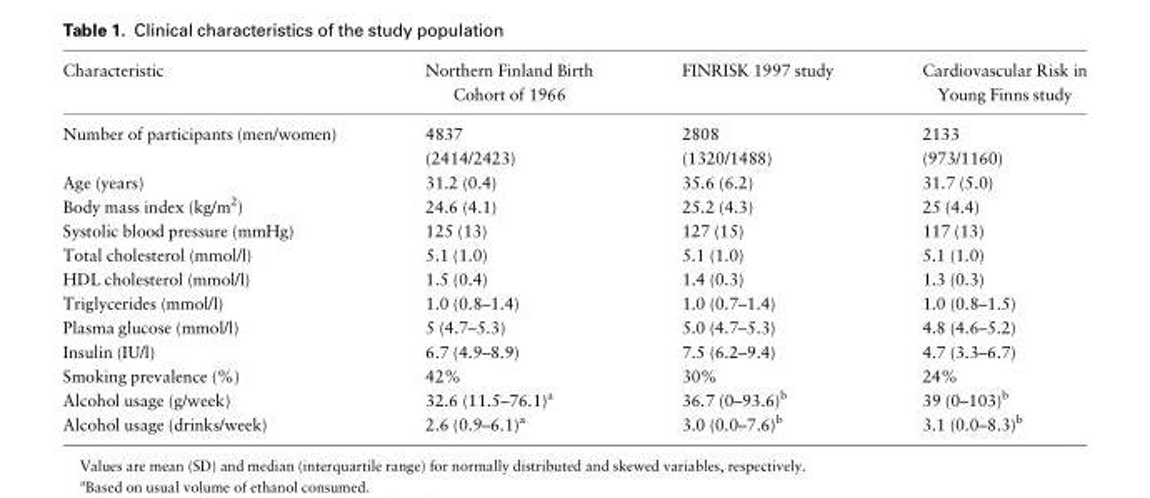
<table><thead><tr><td>Characteristic</td><td>Northern Finland Birth Cohort of 1966</td><td>FINRISK 1997 study</td><td>Cardiovascular Risk in Young Finns study</td></tr></thead><tbody><tr><td rowspan="2">Number of participants (men/women)</td><td>4837</td><td>2808</td><td>2133</td></tr><tr><td>(2414/2423)</td><td>(1320/1488)</td><td>(973/1160)</td></tr><tr><td>Age (years)</td><td>31.2 (0.4)</td><td>35.6 (6.2)</td><td>31.7 (5.0)</td></tr><tr><td>Body mass index (kg/m<sup>2</sup>)</td><td>24.6 (4.1)</td><td>25.2 (4.3)</td><td>25 (4.4)</td></tr><tr><td>Systolic blood pressure (mmHg)</td><td>125 (13)</td><td>127 (15)</td><td>117 (13)</td></tr><tr><td>Total cholesterol (mmol/l)</td><td>5.1 (1.0)</td><td>5.1 (1.0)</td><td>5.1 (1.0)</td></tr><tr><td>HDL cholesterol (mmol/l)</td><td>1.5 (0.4)</td><td>1.4 (0.3)</td><td>1.3 (0.3)</td></tr><tr><td>Triglycerides (mmol/l)</td><td>1.0 (0.8–1.4)</td><td>1.0 (0.7–1.4)</td><td>1.0 (0.8–1.5)</td></tr><tr><td>Plasma glucose (mmol/l)</td><td>5 (4.7–5.3)</td><td>5.0 (4.7–5.3)</td><td>4.8 (4.6–5.2)</td></tr><tr><td>Insulin (IU/l)</td><td>6.7 (4.9–8.9)</td><td>7.5 (6.2–9.4)</td><td>4.7 (3.3–6.7)</td></tr><tr><td>Smoking prevalence (%)</td><td>42%</td><td>30%</td><td>24%</td></tr><tr><td>Alcohol usage (g/week)</td><td>32.6 (11.5–76.1)<sup>a</sup></td><td>36.7 (0–93.6)<sup>b</sup></td><td>39 (0–103)<sup>b</sup></td></tr><tr><td>Alcohol usage (drinks/week)</td><td>2.6 (0.9–6.1)<sup>a</sup></td><td>3.0 (0.0–7.6)<sup>b</sup></td><td>3.1 (0.0–8.3)<sup>b</sup></td></tr></tbody></table>